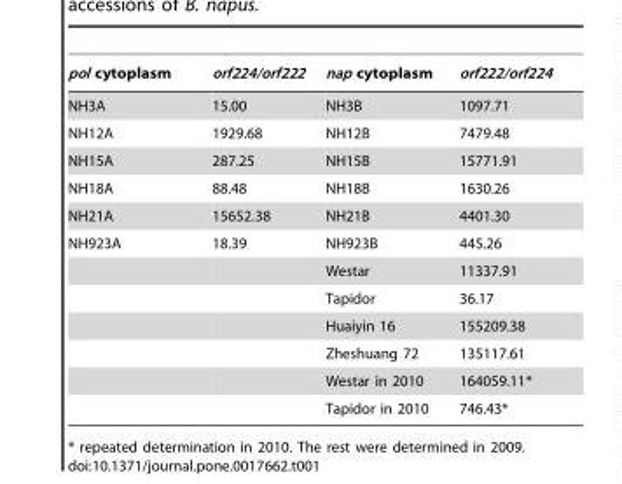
<table><thead><tr><td>pol cytoplasm</td><td>orf224/orf222</td><td>nap cytoplasm</td><td>orf222/orf224</td></tr></thead><tbody><tr><td>NH3A</td><td>15.00</td><td>NH3B</td><td>1097.71</td></tr><tr><td>NH12A</td><td>1929.68</td><td>NH12B</td><td>7479.48</td></tr><tr><td>NH15A</td><td>287.25</td><td>NH15B</td><td>15771.91</td></tr><tr><td>NH18A</td><td>88.48</td><td>NH18B</td><td>1630.26</td></tr><tr><td>NH21A</td><td>15652.38</td><td>NH21B</td><td>4401.30</td></tr><tr><td rowspan="7">NH923A</td><td>18.39</td><td>NH923B</td><td>445.26</td></tr><tr><td></td><td>Westar</td><td>11337.91</td></tr><tr><td></td><td>Tapidor</td><td>36.17</td></tr><tr><td></td><td>Huaiyin 16</td><td>155209.38</td></tr><tr><td></td><td>Zheshuang 72</td><td>135117.61</td></tr><tr><td></td><td>Westar in 2010</td><td>164059.11*</td></tr><tr><td></td><td>Tapidor in 2010</td><td>746.43*</td></tr></tbody></table>